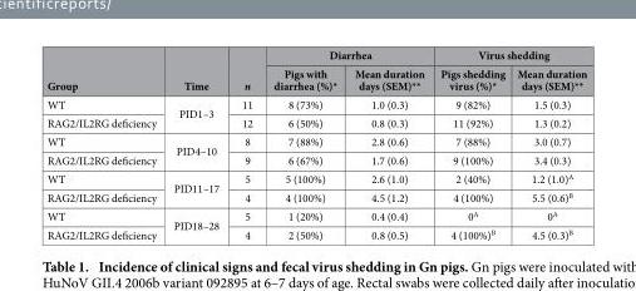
<table><thead><tr><td rowspan="2">Group</td><td rowspan="2">Time</td><td rowspan="2">n</td><td colspan="2">Diarrhea</td><td colspan="2">Virus shedding</td></tr><tr><td>Pigs with diarrhea (%)*</td><td>Mean duration days (SEM)**</td><td>Pigs shedding virus (%)*</td><td>Mean duration days (SEM)**</td></tr></thead><tbody><tr><td>WT</td><td rowspan="2">PID1–3</td><td>11</td><td>8 (73%)</td><td>1.0 (0.3)</td><td>9 (82%)</td><td>1.5 (0.3)</td></tr><tr><td>RAG2/IL2RG deficiency</td><td>12</td><td>6 (50%)</td><td>0.8 (0.3)</td><td>11 (92%)</td><td>1.3 (0.2)</td></tr><tr><td>WT</td><td rowspan="2">PID4–10</td><td>8</td><td>7 (88%)</td><td>2.8 (0.6)</td><td>7 (88%)</td><td>3.0 (0.7)</td></tr><tr><td>RAG2/IL2RG deficiency</td><td>9</td><td>6 (67%)</td><td>1.7 (0.6)</td><td>9 (100%)</td><td>3.4 (0.3)</td></tr><tr><td>WT</td><td rowspan="2">PID11–17</td><td>5</td><td>5 (100%)</td><td>2.6 (1.0)</td><td>2 (40%)</td><td>1.2 (1.0)<sup>A</sup></td></tr><tr><td>RAG2/IL2RG deficiency</td><td>4</td><td>4 (100%)</td><td>4.5 (1.2)</td><td>4 (100%)</td><td>5.5 (0.6)<sup>B</sup></td></tr><tr><td>WT</td><td rowspan="2">PID18–28</td><td>5</td><td>1 (20%)</td><td>0.4 (0.4)</td><td>0<sup>A</sup></td><td>0<sup>A</sup></td></tr><tr><td>RAG2/IL2RG deficiency</td><td>4</td><td>2 (50%)</td><td>0.8 (0.5)</td><td>4 (100%)<sup>B</sup></td><td>4.5 (0.3)<sup>B</sup></td></tr></tbody></table>